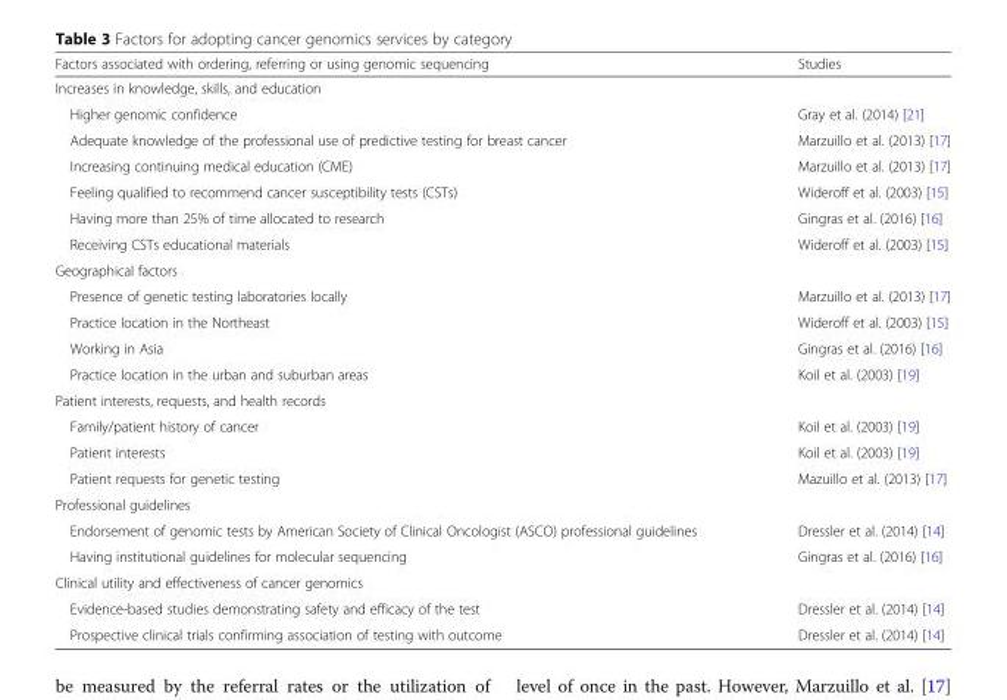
<table><thead><tr><td>Factors associated with ordering, referring or using genomic sequencing</td><td>Studies</td></tr></thead><tbody><tr><td colspan="2">Increases in knowledge, skills, and education</td></tr><tr><td>Higher genomic confidence</td><td>Gray et al. (2014) [21]</td></tr><tr><td>Adequate knowledge of the professional use of predictive testing for breast cancer</td><td>Marzuillo et al. (2013) [17]</td></tr><tr><td>Increasing continuing medical education (CME)</td><td>Marzuillo et al. (2013) [17]</td></tr><tr><td>Feeling qualified to recommend cancer susceptibility tests (CSTs)</td><td>Wideroff et al. (2003) [15]</td></tr><tr><td>Having more than 25% of time allocated to research</td><td>Gingras et al. (2016) [16]</td></tr><tr><td>Receiving CSTs educational materials</td><td>Wideroff et al. (2003) [15]</td></tr><tr><td colspan="2">Geographical factors</td></tr><tr><td>Presence of genetic testing laboratories locally</td><td>Marzuillo et al. (2013) [17]</td></tr><tr><td>Practice location in the Northeast</td><td>Wideroff et al. (2003) [15]</td></tr><tr><td>Working in Asia</td><td>Gingras et al. (2016) [16]</td></tr><tr><td>Practice location in the urban and suburban areas</td><td>Koil et al. (2003) [19]</td></tr><tr><td colspan="2">Patient interests, requests, and health records</td></tr><tr><td>Family/patient history of cancer</td><td>Koil et al. (2003) [19]</td></tr><tr><td>Patient interests</td><td>Koil et al. (2003) [19]</td></tr><tr><td>Patient requests for genetic testing</td><td>Mazuillo et al. (2013) [17]</td></tr><tr><td colspan="2">Professional guidelines</td></tr><tr><td>Endorsement of genomic tests by American Society of Clinical Oncologist (ASCO) professional guidelines</td><td>Dressler et al. (2014) [14]</td></tr><tr><td>Having institutional guidelines for molecular sequencing</td><td>Gingras et al. (2016) [16]</td></tr><tr><td colspan="2">Clinical utility and effectiveness of cancer genomics</td></tr><tr><td>Evidence-based studies demonstrating safety and efficacy of the test</td><td>Dressler et al. (2014) [14]</td></tr><tr><td>Prospective clinical trials confirming association of testing with outcome</td><td>Dressler et al. (2014) [14]</td></tr></tbody></table>